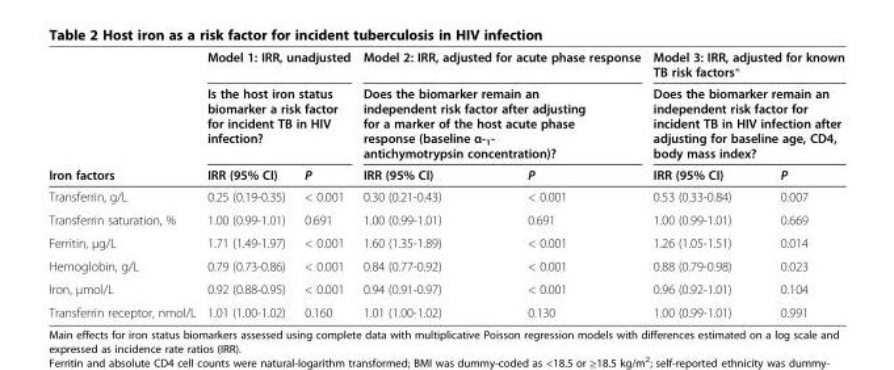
<table><thead><tr><td rowspan="3">Iron factors</td><td rowspan="2" colspan="2">Model 1: IRR, unadjusted Is the host iron status biomarker a risk factor for incident TB in HIV infection?</td><td rowspan="2" colspan="2">Model 2: IRR, adjusted for acute phase response Does the biomarker remain an independent risk factor after adjusting for a marker of the host acute phase response (baseline α-<sub>1</sub>- antichymotrypsin concentration)?</td><td rowspan="2" colspan="2">Model 3: IRR, adjusted for known TB risk factors* Does the biomarker remain an independent risk factor for incident TB in HIV infection after adjusting for baseline age, CD4, body mass index?</td></tr><tr></tr><tr><td>IRR (95% CI)</td><td>P</td><td>IRR (95% CI)</td><td>P</td><td>IRR (95% CI)</td><td>P</td></tr></thead><tbody><tr><td>Transferrin, g/L</td><td>0.25 (0.19-0.35)</td><td>&lt; 0.001</td><td>0.30 (0.21-0.43)</td><td>&lt; 0.001</td><td>0.53 (0.33-0.84)</td><td>0.007</td></tr><tr><td>Transferrin saturation, %</td><td>1.00 (0.99-1.01)</td><td>0.691</td><td>1.00 (0.99-1.01)</td><td>0.691</td><td>1.00 (0.99-1.01)</td><td>0.669</td></tr><tr><td>Ferritin, μg/L</td><td>1.71 (1.49-1.97)</td><td>&lt; 0.001</td><td>1.60 (1.35-1.89)</td><td>&lt; 0.001</td><td>1.26 (1.05-1.51)</td><td>0.014</td></tr><tr><td>Hemoglobin, g/L</td><td>0.79 (0.73-0.86)</td><td>&lt; 0.001</td><td>0.84 (0.77-0.92)</td><td>&lt; 0.001</td><td>0.88 (0.79-0.98)</td><td>0.023</td></tr><tr><td>Iron, μmol/L</td><td>0.92 (0.88-0.95)</td><td>&lt; 0.001</td><td>0.94 (0.91-0.97)</td><td>&lt; 0.001</td><td>0.96 (0.92-1.01)</td><td>0.104</td></tr><tr><td>Transferrin receptor, nmol/L</td><td>1.01 (1.00-1.02)</td><td>0.160</td><td>1.01 (1.00-1.02)</td><td>0.130</td><td>1.00 (0.99-1.01)</td><td>0.991</td></tr></tbody></table>